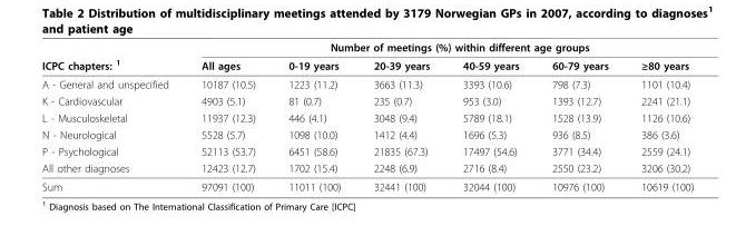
<table><thead><tr><td rowspan="2">ICPC chapters: <sup>1</sup></td><td colspan="6">Number of meetings (%) within different age groups</td></tr><tr><td>All ages</td><td>0-19 years</td><td>20-39 years</td><td>40-59 years</td><td>60-79 years</td><td>≥80 years</td></tr></thead><tbody><tr><td>A - General and unspecified</td><td>10187 (10.5)</td><td>1223 (11.2)</td><td>3663 (11.3)</td><td>3393 (10.6)</td><td>798 (7.3)</td><td>1101 (10.4)</td></tr><tr><td>K - Cardiovascular</td><td>4903 (5.1)</td><td>81 (0.7)</td><td>235 (0.7)</td><td>953 (3.0)</td><td>1393 (12.7)</td><td>2241 (21.1)</td></tr><tr><td>L - Musculoskeletal</td><td>11937 (12.3)</td><td>446 (4.1)</td><td>3048 (9.4)</td><td>5789 (18.1)</td><td>1528 (13.9)</td><td>1126 (10.6)</td></tr><tr><td>N - Neurological</td><td>5528 (5.7)</td><td>1098 (10.0)</td><td>1412 (4.4)</td><td>1696 (5.3)</td><td>936 (8.5)</td><td>386 (3.6)</td></tr><tr><td>P - Psychological</td><td>52113 (53.7)</td><td>6451 (58.6)</td><td>21835 (67.3)</td><td>17497 (54.6)</td><td>3771 (34.4)</td><td>2559 (24.1)</td></tr><tr><td>All other diagnoses</td><td>12423 (12.7)</td><td>1702 (15.4)</td><td>2248 (6.9)</td><td>2716 (8.4)</td><td>2550 (23.2)</td><td>3206 (30.2)</td></tr><tr><td>Sum</td><td>97091 (100)</td><td>11011 (100)</td><td>32441 (100)</td><td>32044 (100)</td><td>10976 (100)</td><td>10619 (100)</td></tr></tbody></table>